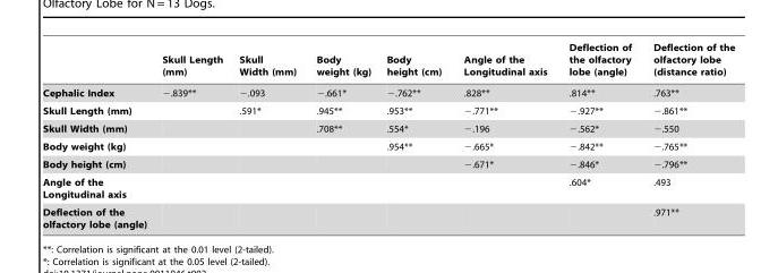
<table><thead><tr><td></td><td>Skull Length (mm)</td><td>Skull Width (mm)</td><td>Body weight (kg)</td><td>Body height (cm)</td><td>Angle of the Longitudinal axis</td><td>Deflection of the olfactory lobe (angle)</td><td>Deflection of the olfactory lobe (distance ratio)</td></tr></thead><tbody><tr><td>Cephalic Index</td><td>−.839**</td><td>−.093</td><td>−.661*</td><td>−.762**</td><td>.828**</td><td>.814**</td><td>.763**</td></tr><tr><td>Skull Length (mm)</td><td></td><td>.591*</td><td>.945**</td><td>.953**</td><td>−.771**</td><td>−.927**</td><td>−.861**</td></tr><tr><td>Skull Width (mm)</td><td></td><td></td><td>.708**</td><td>.554*</td><td>−.196</td><td>−.562*</td><td>−.550</td></tr><tr><td>Body weight (kg)</td><td></td><td></td><td></td><td>.954**</td><td>−.665*</td><td>−.842**</td><td>−.765**</td></tr><tr><td>Body height (cm)</td><td></td><td></td><td></td><td></td><td>−.671*</td><td>−.846*</td><td>−.796**</td></tr><tr><td>Angle of the Longitudinal axis</td><td></td><td></td><td></td><td></td><td></td><td>.604*</td><td>.493</td></tr><tr><td>Deflection of the olfactory lobe (angle)</td><td></td><td></td><td></td><td></td><td></td><td></td><td>.971**</td></tr></tbody></table>